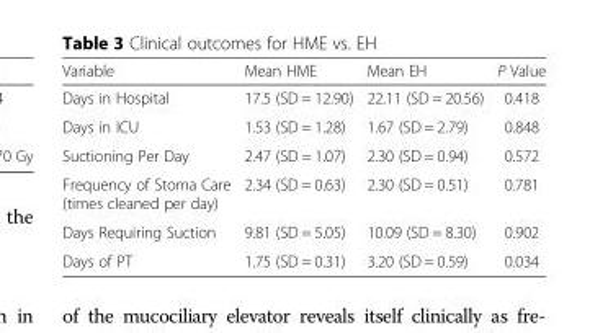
<table><thead><tr><td>Variable</td><td>Mean HME</td><td>Mean EH</td><td>P Value</td></tr></thead><tbody><tr><td>Days in Hospital</td><td>17.5 (SD = 12.90)</td><td>22.11 (SD = 20.56)</td><td>0.418</td></tr><tr><td>Days in ICU</td><td>1.53 (SD = 1.28)</td><td>1.67 (SD = 2.79)</td><td>0.848</td></tr><tr><td>Suctioning Per Day</td><td>2.47 (SD = 1.07)</td><td>2.30 (SD = 0.94)</td><td>0.572</td></tr><tr><td>Frequency of Stoma Care (times cleaned per day)</td><td>2.34 (SD = 0.63)</td><td>2.30 (SD = 0.51)</td><td>0.781</td></tr><tr><td>Days Requiring Suction</td><td>9.81 (SD = 5.05)</td><td>10.09 (SD = 8.30)</td><td>0.902</td></tr><tr><td>Days of PT</td><td>1.75 (SD = 0.31)</td><td>3.20 (SD = 0.59)</td><td>0.034</td></tr></tbody></table>